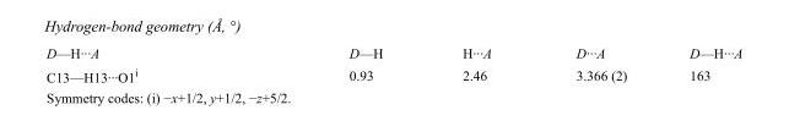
<table><tbody><tr><td>D—H···A</td><td>D—H</td><td>H···A</td><td>D···A</td><td>D—H···A</td></tr><tr><td>C13—H13···O1<sup>i</sup></td><td>0.93</td><td>2.46</td><td>3.366 (2)</td><td>163</td></tr></tbody></table>